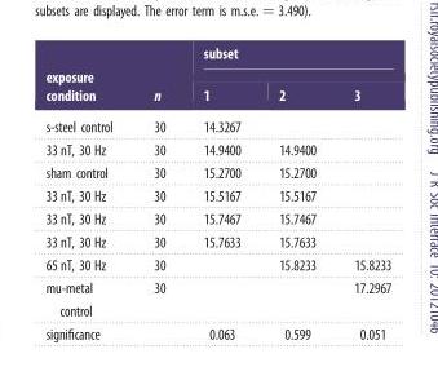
<table><thead><tr><td rowspan="2">exposure condition</td><td rowspan="2">n</td><td colspan="3">subset</td></tr><tr><td>1</td><td>2</td><td>3</td></tr></thead><tbody><tr><td>s-steel control</td><td>30</td><td>14.3267</td><td></td><td></td></tr><tr><td>33 nT, 30 Hz</td><td>30</td><td>14.9400</td><td>14.9400</td><td></td></tr><tr><td>sham control</td><td>30</td><td>15.2700</td><td>15.2700</td><td></td></tr><tr><td>33 nT, 30 Hz</td><td>30</td><td>15.5167</td><td>15.5167</td><td></td></tr><tr><td>33 nT, 30 Hz</td><td>30</td><td>15.7467</td><td>15.7467</td><td></td></tr><tr><td>33 nT, 30 Hz</td><td>30</td><td>15.7633</td><td>15.7633</td><td></td></tr><tr><td>65 nT, 30 Hz</td><td>30</td><td></td><td>15.8233</td><td>15.8233</td></tr><tr><td>mu-metal control</td><td>30</td><td></td><td></td><td>17.2967</td></tr><tr><td>significance</td><td></td><td>0.063</td><td>0.599</td><td>0.051</td></tr></tbody></table>